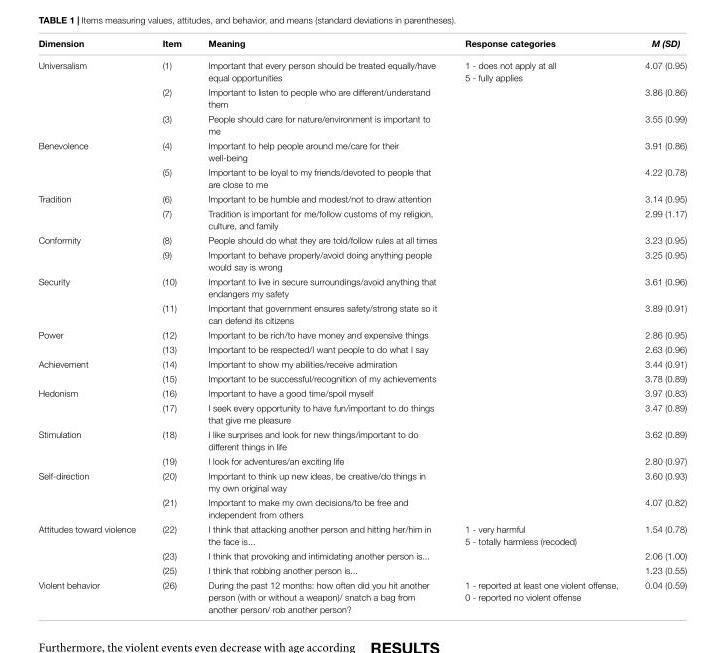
<table><thead><tr><td>Dimension</td><td>Item</td><td>Meaning</td><td>Response categories</td><td>M (SD)</td></tr></thead><tbody><tr><td rowspan="3">Universalism</td><td>(1)</td><td>Important that every person should be treated equally/have equal opportunities</td><td>1 - does not apply at all 5 - fully applies</td><td>4.07 (0.95)</td></tr><tr><td>(2)</td><td>Important to listen to people who are different/understand them</td><td></td><td>3.86 (0.86)</td></tr><tr><td>(3)</td><td>People should care for nature/environment is important to me</td><td></td><td>3.55 (0.99)</td></tr><tr><td rowspan="2">Benevolence</td><td>(4)</td><td>Important to help people around me/care for their well-being</td><td></td><td>3.91 (0.86)</td></tr><tr><td>(5)</td><td>Important to be loyal to my friends/devoted to people that are close to me</td><td></td><td>4.22 (0.78)</td></tr><tr><td rowspan="2">Tradition</td><td>(6)</td><td>Important to be humble and modest/not to draw attention</td><td></td><td>3.14 (0.95)</td></tr><tr><td>(7)</td><td>Tradition is important for me/follow customs of my religion, culture, and family</td><td></td><td>2.99 (1.17)</td></tr><tr><td rowspan="2">Conformity</td><td>(8)</td><td>People should do what they are told/follow rules at all times</td><td></td><td>3.23 (0.95)</td></tr><tr><td>(9)</td><td>Important to behave properly/avoid doing anything people would say is wrong</td><td></td><td>3.25 (0.95)</td></tr><tr><td rowspan="2">Security</td><td>(10)</td><td>Important to live in secure surroundings/avoid anything that endangers my safety</td><td></td><td>3.61 (0.96)</td></tr><tr><td>(11)</td><td>Important that government ensures safety/strong state so it can defend its citizens</td><td></td><td>3.89 (0.91)</td></tr><tr><td rowspan="2">Power</td><td>(12)</td><td>Important to be rich/to have money and expensive things</td><td></td><td>2.86 (0.95)</td></tr><tr><td>(13)</td><td>Important to be respected/I want people to do what I say</td><td></td><td>2.63 (0.96)</td></tr><tr><td rowspan="2">Achievement</td><td>(14)</td><td>Important to show my abilities/receive admiration</td><td></td><td>3.44 (0.91)</td></tr><tr><td>(15)</td><td>Important to be successful/recognition of my achievements</td><td></td><td>3.78 (0.89)</td></tr><tr><td rowspan="2">Hedonism</td><td>(16)</td><td>Important to have a good time/spoil myself</td><td></td><td>3.97 (0.83)</td></tr><tr><td>(17)</td><td>I seek every opportunity to have fun/important to do things that give me pleasure</td><td></td><td>3.47 (0.89)</td></tr><tr><td rowspan="2">Stimulation</td><td>(18)</td><td>I like surprises and look for new things/important to do different things in life</td><td></td><td>3.62 (0.89)</td></tr><tr><td>(19)</td><td>I look for adventures/an exciting life</td><td></td><td>2.80 (0.97)</td></tr><tr><td rowspan="2">Self-direction</td><td>(20)</td><td>Important to think up new ideas, be creative/do things in my own original way</td><td></td><td>3.60 (0.93)</td></tr><tr><td>(21)</td><td>Important to make my own decisions/to be free and independent from others</td><td></td><td>4.07 (0.82)</td></tr><tr><td rowspan="3">Attitudes toward violence</td><td>(22)</td><td>I think that attacking another person and hitting her/him in the face is...</td><td>1 - very harmful 5 - totally harmless (recoded)</td><td>1.54 (0.78)</td></tr><tr><td>(23)</td><td>I think that provoking and intimidating another person is...</td><td></td><td>2.06 (1.00)</td></tr><tr><td>(25)</td><td>I think that robbing another person is...</td><td></td><td>1.23 (0.55)</td></tr><tr><td>Violent behavior</td><td>(26)</td><td>During the past 12 months: how often did you hit another person (with or without a weapon)/ snatch a bag from another person/ rob another person?</td><td>1 - reported at least one violent offense, 0 - reported no violent offense</td><td>0.04 (0.59)</td></tr></tbody></table>